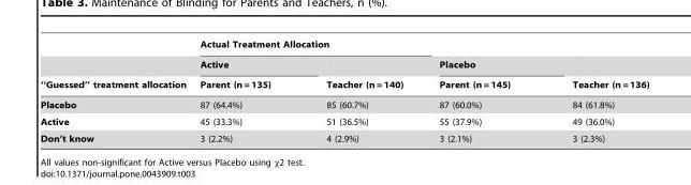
<table><thead><tr><td rowspan="3">‘‘Guessed’’ treatment allocation</td><td colspan="2">Actual Treatment Allocation</td><td rowspan="3">Placebo Parent (n = 145)</td><td rowspan="3">Teacher (n = 136)</td></tr><tr><td rowspan="2">Active Parent (n = 135)</td><td rowspan="2">Teacher (n = 140)</td></tr><tr></tr></thead><tbody><tr><td>Placebo</td><td>87 (64.4%)</td><td>85 (60.7%)</td><td>87 (60.0%)</td><td>84 (61.8%)</td></tr><tr><td>Active</td><td>45 (33.3%)</td><td>51 (36.5%)</td><td>55 (37.9%)</td><td>49 (36.0%)</td></tr><tr><td>Don’t know</td><td>3 (2.2%)</td><td>4 (2.9%)</td><td>3 (2.1%)</td><td>3 (2.3%)</td></tr></tbody></table>